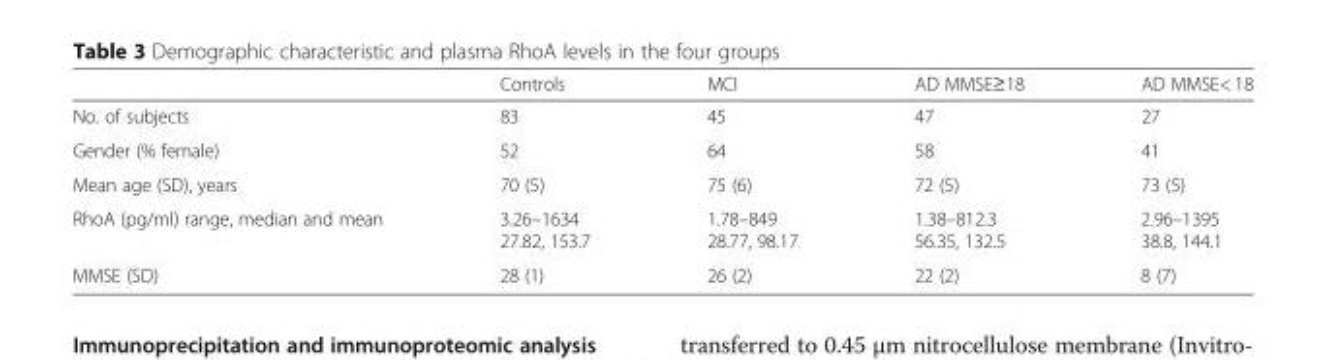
<table><thead><tr><td></td><td>Controls</td><td>MCI</td><td>AD MMSE≥18</td><td>AD MMSE&lt; 18</td></tr></thead><tbody><tr><td>No. of subjects</td><td>83</td><td>45</td><td>47</td><td>27</td></tr><tr><td>Gender (% female)</td><td>52</td><td>64</td><td>58</td><td>41</td></tr><tr><td>Mean age (SD), years</td><td>70 (5)</td><td>75 (6)</td><td>72 (5)</td><td>73 (5)</td></tr><tr><td>RhoA (pg/ml) range, median and mean</td><td>3.26–1634 27.82, 153.7</td><td>1.78–849 28.77, 98.17</td><td>1.38–812.3 56.35, 132.5</td><td>2.96–1395 38.8, 144.1</td></tr><tr><td>MMSE (SD)</td><td>28 (1)</td><td>26 (2)</td><td>22 (2)</td><td>8 (7)</td></tr></tbody></table>